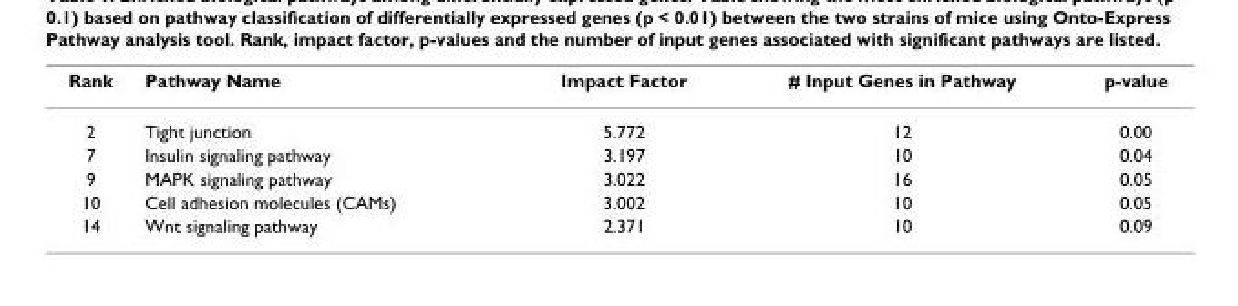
<table><thead><tr><td>Rank</td><td>Pathway Name</td><td>Impact Factor</td><td># Input Genes in Pathway</td><td>p-value</td></tr></thead><tbody><tr><td>2</td><td>Tight junction</td><td>5.772</td><td>12</td><td>0.00</td></tr><tr><td>7</td><td>Insulin signaling pathway</td><td>3.197</td><td>10</td><td>0.04</td></tr><tr><td>9</td><td>MAPK signaling pathway</td><td>3.022</td><td>16</td><td>0.05</td></tr><tr><td>10</td><td>Cell adhesion molecules (CAMs)</td><td>3.002</td><td>10</td><td>0.05</td></tr><tr><td>14</td><td>Wnt signaling pathway</td><td>2.371</td><td>10</td><td>0.09</td></tr></tbody></table>